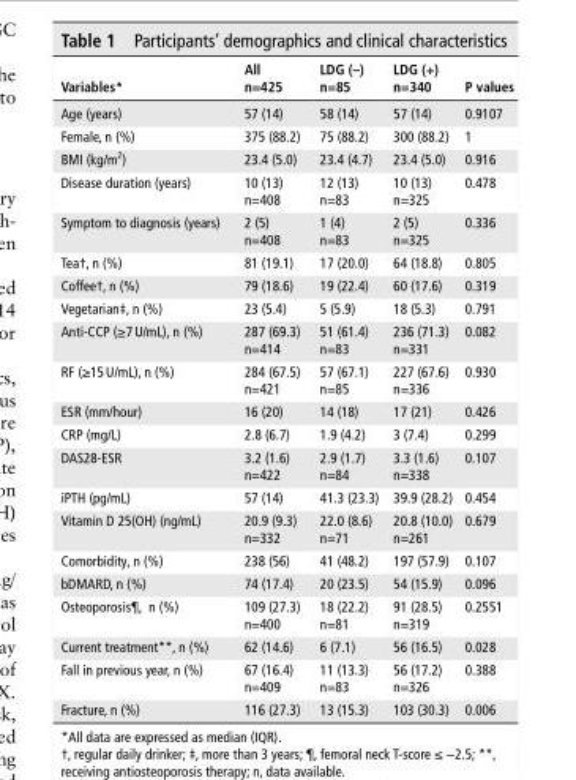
<table><thead><tr><td>Variables*</td><td>All n=425</td><td>LdG (–) n=85</td><td>LdG (+) n=340</td><td>P values</td></tr></thead><tbody><tr><td>Age (years)</td><td>57 (14)</td><td>58 (14)</td><td>57 (14)</td><td>0.9107</td></tr><tr><td>Female, n (%)</td><td>375 (88.2)</td><td>75 (88.2)</td><td>300 (88.2)</td><td>1</td></tr><tr><td>BMI (kg/m<sup>2</sup>)</td><td>23.4 (5.0)</td><td>23.4 (4.7)</td><td>23.4 (5.0)</td><td>0.916</td></tr><tr><td>Disease duration (years)</td><td>10 (13) n=408</td><td>12 (13) n=83</td><td>10 (13) n=325</td><td>0.478</td></tr><tr><td>Symptom to diagnosis (years)</td><td>2 (5) n=408</td><td>1 (4) n=83</td><td>2 (5) n=325</td><td>0.336</td></tr><tr><td>Tea†, n (%)</td><td>81 (19.1)</td><td>17 (20.0)</td><td>64 (18.8)</td><td>0.805</td></tr><tr><td>Coffee†, n (%)</td><td>79 (18.6)</td><td>19 (22.4)</td><td>60 (17.6)</td><td>0.319</td></tr><tr><td>Vegetarian‡, n (%)</td><td>23 (5.4)</td><td>5 (5.9)</td><td>18 (5.3)</td><td>0.791</td></tr><tr><td>Anti-CCP (≥7 U/mL), n (%)</td><td>287 (69.3) n=414</td><td>51 (61.4) n=83</td><td>236 (71.3) n=331</td><td>0.082</td></tr><tr><td>RF (≥15 U/mL), n (%)</td><td>284 (67.5) n=421</td><td>57 (67.1) n=85</td><td>227 (67.6) n=336</td><td>0.930</td></tr><tr><td>ESR (mm/hour)</td><td>16 (20)</td><td>14 (18)</td><td>17 (21)</td><td>0.426</td></tr><tr><td>CRP (mg/L)</td><td>2.8 (6.7)</td><td>1.9 (4.2)</td><td>3 (7.4)</td><td>0.299</td></tr><tr><td>DAS28-ESR</td><td>3.2 (1.6) n=422</td><td>2.9 (1.7) n=84</td><td>3.3 (1.6) n=338</td><td>0.107</td></tr><tr><td>iPTH (pg/mL)</td><td>57 (14)</td><td>41.3 (23.3)</td><td>39.9 (28.2)</td><td>0.454</td></tr><tr><td>Vitamin D 25(OH) (ng/mL)</td><td>20.9 (9.3) n=332</td><td>22.0 (8.6) n=71</td><td>20.8 (10.0) n=261</td><td>0.679</td></tr><tr><td>Comorbidity, n (%)</td><td>238 (56)</td><td>41 (48.2)</td><td>197 (57.9)</td><td>0.107</td></tr><tr><td>bDMARD, n (%)</td><td>74 (17.4)</td><td>20 (23.5)</td><td>54 (15.9)</td><td>0.096</td></tr><tr><td>Osteoporosis¶, n (%)</td><td>109 (27.3) n=400</td><td>18 (22.2) n=81</td><td>91 (28.5) n=319</td><td>0.2551</td></tr><tr><td>Current treatment**, n (%)</td><td>62 (14.6)</td><td>6 (7.1)</td><td>56 (16.5)</td><td>0.028</td></tr><tr><td>Fall in previous year, n (%)</td><td>67 (16.4) n=409</td><td>11 (13.3) n=83</td><td>56 (17.2) n=326</td><td>0.388</td></tr><tr><td>Fracture, n (%)</td><td>116 (27.3)</td><td>13 (15.3)</td><td>103 (30.3)</td><td>0.006</td></tr></tbody></table>